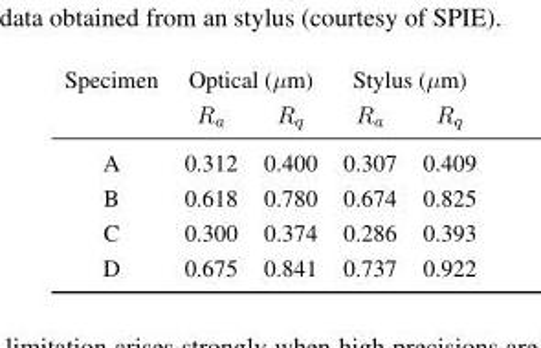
<table><thead><tr><td rowspan="2">Specimen</td><td colspan="2">Optical (µm)</td><td colspan="2">Stylus (µm)</td></tr><tr><td>R<sub>a</sub></td><td>R<sub>q</sub></td><td>R<sub>a</sub></td><td>R<sub>q</sub></td></tr></thead><tbody><tr><td>A</td><td>0.312</td><td>0.400</td><td>0.307</td><td>0.409</td></tr><tr><td>B</td><td>0.618</td><td>0.780</td><td>0.674</td><td>0.825</td></tr><tr><td>C</td><td>0.300</td><td>0.374</td><td>0.286</td><td>0.393</td></tr><tr><td>D</td><td>0.675</td><td>0.841</td><td>0.737</td><td>0.922</td></tr></tbody></table>